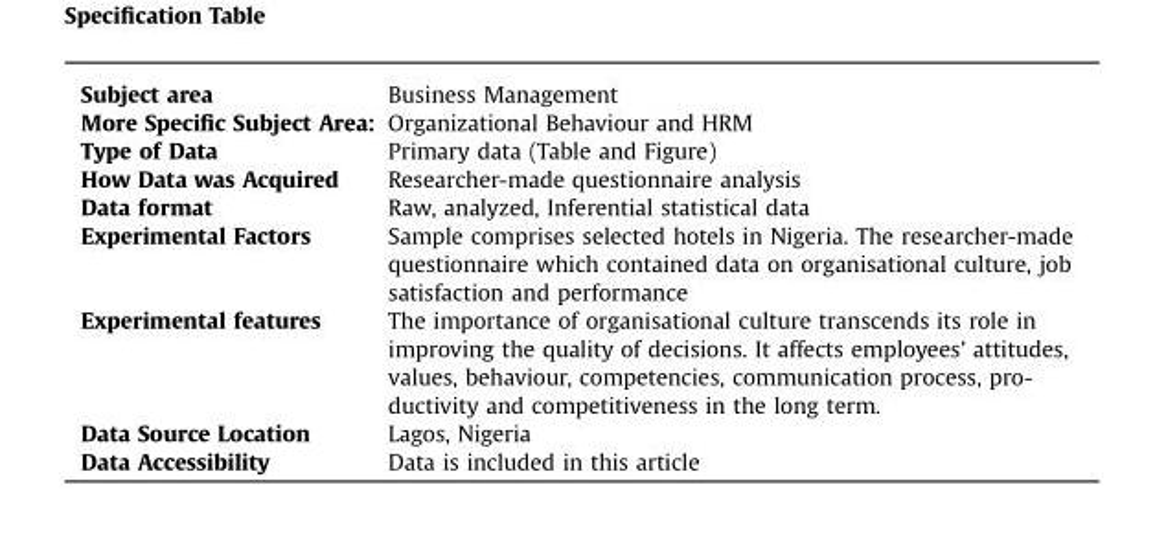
<table><tbody><tr><td>Subject area</td><td>Business Management</td></tr><tr><td>More Specific Subject Area:</td><td>Organizational Behaviour and HRM</td></tr><tr><td>Type of Data</td><td>Primary data (Table and Figure)</td></tr><tr><td>How Data was Acquired</td><td>Researcher-made questionnaire analysis</td></tr><tr><td>Data format</td><td>Raw, analyzed, Inferential statistical data</td></tr><tr><td>Experimental Factors</td><td>Sample comprises selected hotels in Nigeria. The researcher-made questionnaire which contained data on organisational culture, job satisfaction and performance</td></tr><tr><td>Experimental features</td><td>The importance of organisational culture transcends its role in improving the quality of decisions. It affects employees’ attitudes, values, behaviour, competencies, communication process, pro- ductivity and competitiveness in the long term.</td></tr><tr><td>Data Source Location</td><td>Lagos, Nigeria</td></tr><tr><td>Data Accessibility</td><td>Data is included in this article</td></tr></tbody></table>